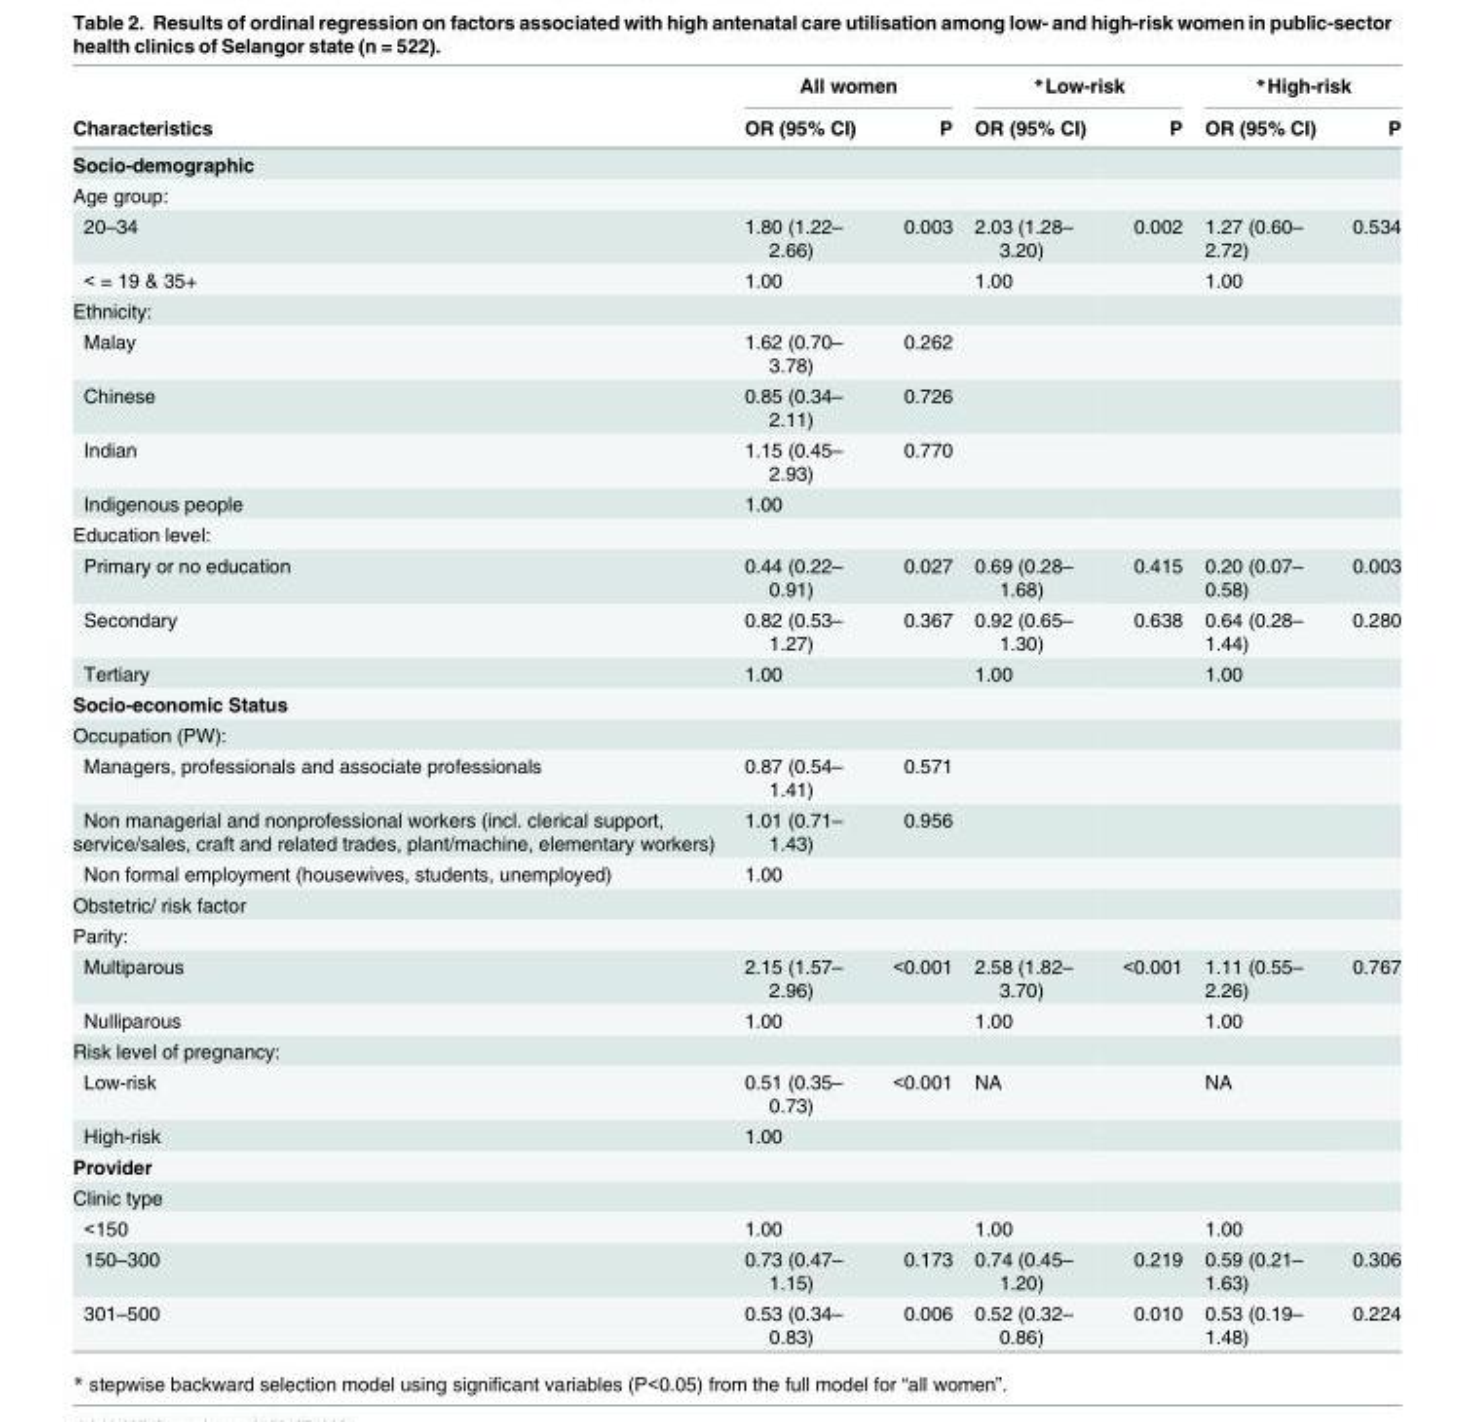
<table><thead><tr><td rowspan="2">Characteristics</td><td colspan="2">All women</td><td colspan="2">*Low-risk</td><td colspan="2">*High-risk</td></tr><tr><td>OR (95% CI)</td><td>P</td><td>OR (95% CI)</td><td>P</td><td>OR (95% CI)</td><td>P</td></tr></thead><tbody><tr><td colspan="7">Socio-demographic</td></tr><tr><td colspan="7">Age group:</td></tr><tr><td>20–34</td><td>1.80 (1.22– 2.66)</td><td>0.003</td><td>2.03 (1.28– 3.20)</td><td>0.002</td><td>1.27 (0.60– 2.72)</td><td>0.534</td></tr><tr><td>&lt; = 19 &amp; 35+</td><td>1.00</td><td></td><td>1.00</td><td></td><td>1.00</td><td></td></tr><tr><td colspan="7">Ethnicity:</td></tr><tr><td>Malay</td><td>1.62 (0.70– 3.78)</td><td>0.262</td><td></td><td></td><td></td><td></td></tr><tr><td>Chinese</td><td>0.85 (0.34– 2.11)</td><td>0.726</td><td></td><td></td><td></td><td></td></tr><tr><td>Indian</td><td>1.15 (0.45– 2.93)</td><td>0.770</td><td></td><td></td><td></td><td></td></tr><tr><td>Indigenous people</td><td>1.00</td><td></td><td></td><td></td><td></td><td></td></tr><tr><td colspan="7">Education level:</td></tr><tr><td>Primary or no education</td><td>0.44 (0.22– 0.91)</td><td>0.027</td><td>0.69 (0.28– 1.68)</td><td>0.415</td><td>0.20 (0.07– 0.58)</td><td>0.003</td></tr><tr><td>Secondary</td><td>0.82 (0.53– 1.27)</td><td>0.367</td><td>0.92 (0.65– 1.30)</td><td>0.638</td><td>0.64 (0.28– 1.44)</td><td>0.280</td></tr><tr><td>Tertiary</td><td>1.00</td><td></td><td>1.00</td><td></td><td>1.00</td><td></td></tr><tr><td colspan="7">Socio-economic Status</td></tr><tr><td colspan="7">Occupation (PW):</td></tr><tr><td>Managers, professionals and associate professionals</td><td>0.87 (0.54– 1.41)</td><td>0.571</td><td></td><td></td><td></td><td></td></tr><tr><td>Non managerial and nonprofessional workers (incl. clerical support, service/sales, craft and related trades, plant/machine, elementary workers)</td><td>1.01 (0.71– 1.43)</td><td>0.956</td><td></td><td></td><td></td><td></td></tr><tr><td>Non formal employment (housewives, students, unemployed)</td><td>1.00</td><td></td><td></td><td></td><td></td><td></td></tr><tr><td colspan="7">Obstetric/ risk factor</td></tr><tr><td colspan="7">Parity:</td></tr><tr><td>Multiparous</td><td>2.15 (1.57– 2.96)</td><td>&lt;0.001</td><td>2.58 (1.82– 3.70)</td><td>&lt;0.001</td><td>1.11 (0.55– 2.26)</td><td>0.767</td></tr><tr><td>Nulliparous</td><td>1.00</td><td></td><td>1.00</td><td></td><td>1.00</td><td></td></tr><tr><td colspan="7">Risk level of pregnancy:</td></tr><tr><td>Low-risk</td><td>0.51 (0.35– 0.73)</td><td>&lt;0.001</td><td>NA</td><td></td><td>NA</td><td></td></tr><tr><td>High-risk</td><td>1.00</td><td></td><td></td><td></td><td></td><td></td></tr><tr><td colspan="7">Provider</td></tr><tr><td colspan="7">Clinic type</td></tr><tr><td>&lt;150</td><td>1.00</td><td></td><td>1.00</td><td></td><td>1.00</td><td></td></tr><tr><td>150–300</td><td>0.73 (0.47– 1.15)</td><td>0.173</td><td>0.74 (0.45– 1.20)</td><td>0.219</td><td>0.59 (0.21– 1.63)</td><td>0.306</td></tr><tr><td>301–500</td><td>0.53 (0.34– 0.83)</td><td>0.006</td><td>0.52 (0.32– 0.86)</td><td>0.010</td><td>0.53 (0.19– 1.48)</td><td>0.224</td></tr></tbody></table>